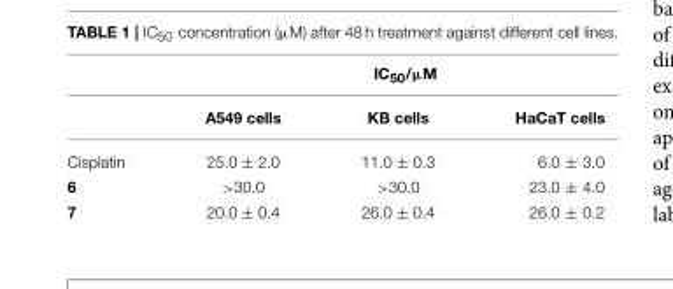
<table><thead><tr><td rowspan="2"></td><td colspan="3">IC<sub>50</sub>/µM</td></tr><tr><td>A549 cells</td><td>KB cells</td><td>HaCaT cells</td></tr></thead><tbody><tr><td>Cisplatin</td><td>25.0 ± 2.0</td><td>11.0 ± 0.3</td><td>6.0 ± 3.0</td></tr><tr><td>6</td><td>&gt;30.0</td><td>&gt;30.0</td><td>23.0 ± 4.0</td></tr><tr><td>7</td><td>20.0 ± 0.4</td><td>26.0 ± 0.4</td><td>26.0 ± 0.2</td></tr></tbody></table>